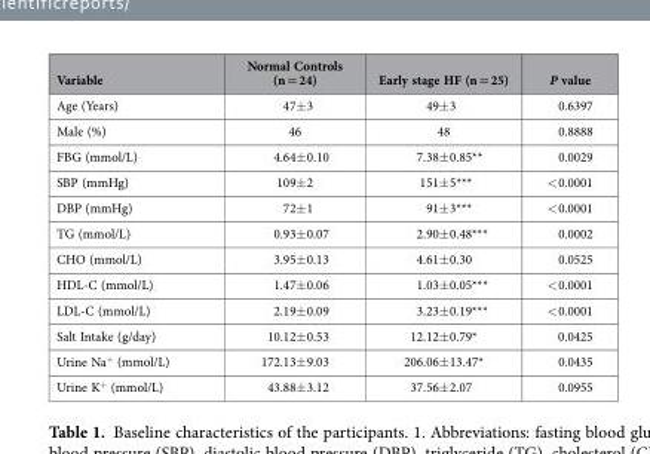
<table><thead><tr><td>Variable</td><td>Normal Controls (n = 24)</td><td>Early stage HF (n = 25)</td><td>P value</td></tr></thead><tbody><tr><td>Age (Years)</td><td>47± 3</td><td>49± 3</td><td>0.6397</td></tr><tr><td>Male (%)</td><td>46</td><td>48</td><td>0.8888</td></tr><tr><td>FBG (mmol/L)</td><td>4.64± 0.10</td><td>7.38± 0.85**</td><td>0.0029</td></tr><tr><td>SBP (mmHg)</td><td>109± 2</td><td>151± 5***</td><td>&lt; 0.0001</td></tr><tr><td>DBP (mmHg)</td><td>72± 1</td><td>91± 3***</td><td>&lt; 0.0001</td></tr><tr><td>TG (mmol/L)</td><td>0.93± 0.07</td><td>2.90± 0.48***</td><td>0.0002</td></tr><tr><td>CHO (mmol/L)</td><td>3.95± 0.13</td><td>4.61± 0.30</td><td>0.0525</td></tr><tr><td>HDL-C (mmol/L)</td><td>1.47± 0.06</td><td>1.03± 0.05***</td><td>&lt; 0.0001</td></tr><tr><td>LDL-C (mmol/L)</td><td>2.19± 0.09</td><td>3.23± 0.19***</td><td>&lt; 0.0001</td></tr><tr><td>Salt Intake (g/day)</td><td>10.12± 0.53</td><td>12.12± 0.79*</td><td>0.0425</td></tr><tr><td>Urine Na<sup>+</sup> (mmol/L)</td><td>172.13± 9.03</td><td>206.06± 13.47*</td><td>0.0435</td></tr><tr><td>Urine K<sup>+</sup> (mmol/L)</td><td>43.88± 3.12</td><td>37.56± 2.07</td><td>0.0955</td></tr></tbody></table>